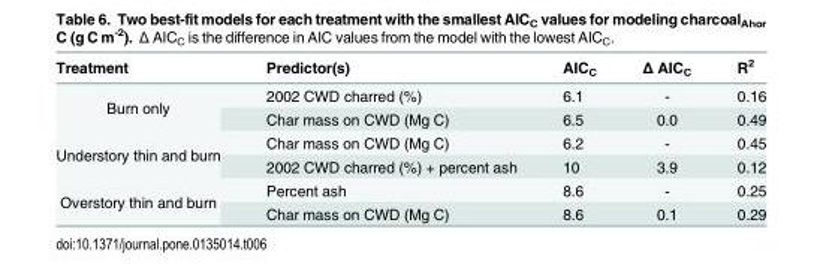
<table><thead><tr><td>Treatment</td><td>Predictor(s)</td><td>AIC<sub>C</sub></td><td>Δ AIC<sub>C</sub></td><td>R<sup>2</sup></td></tr></thead><tbody><tr><td rowspan="2">Burn only</td><td>2002 CWD charred (%)</td><td>6.1</td><td>-</td><td>0.16</td></tr><tr><td>Char mass on CWD (Mg C)</td><td>6.5</td><td>0.0</td><td>0.49</td></tr><tr><td rowspan="2">Understory thin and burn</td><td>Char mass on CWD (Mg C)</td><td>6.2</td><td>-</td><td>0.45</td></tr><tr><td>2002 CWD charred (%) + percent ash</td><td>10</td><td>3.9</td><td>0.12</td></tr><tr><td rowspan="2">Overstory thin and burn</td><td>Percent ash</td><td>8.6</td><td>-</td><td>0.25</td></tr><tr><td>Char mass on CWD (Mg C)</td><td>8.6</td><td>0.1</td><td>0.29</td></tr></tbody></table>